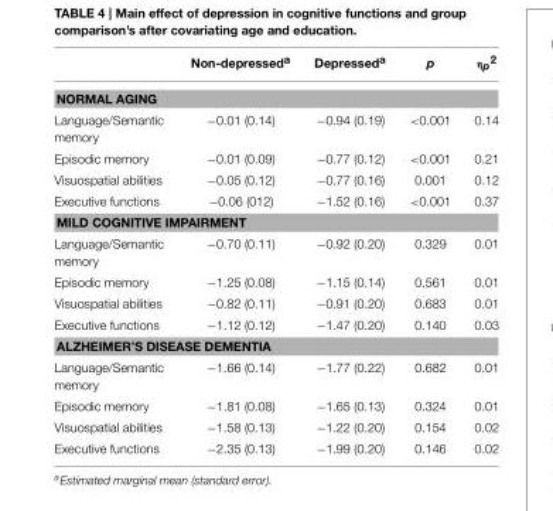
<table><thead><tr><td></td><td>Non-depressed<sup>a</sup></td><td>Depressed<sup>a</sup></td><td>p</td><td>ηp2</td></tr></thead><tbody><tr><td colspan="5">NORMAL AGING</td></tr><tr><td>Language/Semantic memory</td><td>−0.01 (0.14)</td><td>−0.94 (0.19)</td><td>&lt;0.001</td><td>0.14</td></tr><tr><td>Episodic memory</td><td>−0.01 (0.09)</td><td>−0.77 (0.12)</td><td>&lt;0.001</td><td>0.21</td></tr><tr><td>Visuospatial abilities</td><td>−0.05 (0.12)</td><td>−0.77 (0.16)</td><td>0.001</td><td>0.12</td></tr><tr><td>Executive functions</td><td>−0.06 (012)</td><td>−1.52 (0.16)</td><td>&lt;0.001</td><td>0.37</td></tr><tr><td colspan="5">MILD COGNITIVE IMPAIRMENT</td></tr><tr><td>Language/Semantic memory</td><td>−0.70 (0.11)</td><td>−0.92 (0.20)</td><td>0.329</td><td>0.01</td></tr><tr><td>Episodic memory</td><td>−1.25 (0.08)</td><td>−1.15 (0.14)</td><td>0.561</td><td>0.01</td></tr><tr><td>Visuospatial abilities</td><td>−0.82 (0.11)</td><td>−0.91 (0.20)</td><td>0.683</td><td>0.01</td></tr><tr><td>Executive functions</td><td>−1.12 (0.12)</td><td>−1.47 (0.20)</td><td>0.140</td><td>0.03</td></tr><tr><td colspan="5">ALZHEIMER’S DISEASE DEMENTIA</td></tr><tr><td>Language/Semantic memory</td><td>−1.66 (0.14)</td><td>−1.77 (0.22)</td><td>0.682</td><td>0.01</td></tr><tr><td>Episodic memory</td><td>−1.81 (0.08)</td><td>−1.65 (0.13)</td><td>0.324</td><td>0.01</td></tr><tr><td>Visuospatial abilities</td><td>−1.58 (0.13)</td><td>−1.22 (0.20)</td><td>0.154</td><td>0.02</td></tr><tr><td>Executive functions</td><td>−2.35 (0.13)</td><td>−1.99 (0.20)</td><td>0.146</td><td>0.02</td></tr></tbody></table>